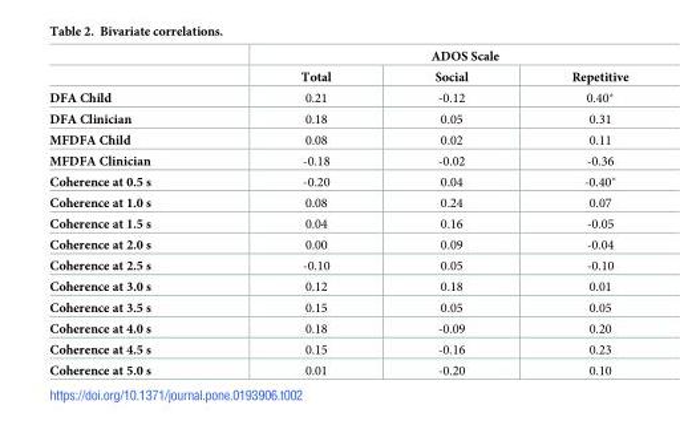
<table><thead><tr><td rowspan="2"></td><td colspan="3">ADOS Scale</td></tr><tr><td>Total</td><td>Social</td><td>Repetitive</td></tr></thead><tbody><tr><td>DFA Child</td><td>0.21</td><td>-0.12</td><td>0.40*</td></tr><tr><td>DFA Clinician</td><td>0.18</td><td>0.05</td><td>0.31</td></tr><tr><td>MFDFA Child</td><td>0.08</td><td>0.02</td><td>0.11</td></tr><tr><td>MFDFA Clinician</td><td>-0.18</td><td>-0.02</td><td>-0.36</td></tr><tr><td>Coherence at 0.5 s</td><td>-0.20</td><td>0.04</td><td>-0.40*</td></tr><tr><td>Coherence at 1.0 s</td><td>0.08</td><td>0.24</td><td>0.07</td></tr><tr><td>Coherence at 1.5 s</td><td>0.04</td><td>0.16</td><td>-0.05</td></tr><tr><td>Coherence at 2.0 s</td><td>0.00</td><td>0.09</td><td>-0.04</td></tr><tr><td>Coherence at 2.5 s</td><td>-0.10</td><td>0.05</td><td>-0.10</td></tr><tr><td>Coherence at 3.0 s</td><td>0.12</td><td>0.18</td><td>0.01</td></tr><tr><td>Coherence at 3.5 s</td><td>0.15</td><td>0.05</td><td>0.05</td></tr><tr><td>Coherence at 4.0 s</td><td>0.18</td><td>-0.09</td><td>0.20</td></tr><tr><td>Coherence at 4.5 s</td><td>0.15</td><td>-0.16</td><td>0.23</td></tr><tr><td>Coherence at 5.0 s</td><td>0.01</td><td>-0.20</td><td>0.10</td></tr></tbody></table>